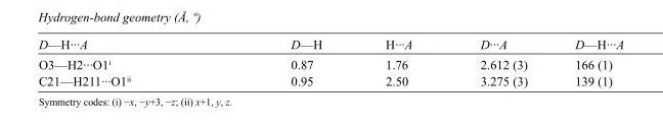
<table><tbody><tr><td>D—H···A</td><td>D—H</td><td>H···A</td><td>D···A</td><td>D—H···A</td></tr><tr><td>O3—H2···O1<sup>i</sup></td><td>0.87</td><td>1.76</td><td>2.612 (3)</td><td>166 (1)</td></tr><tr><td>C21—H211···O1<sup>ii</sup></td><td>0.95</td><td>2.50</td><td>3.275 (3)</td><td>139 (1)</td></tr></tbody></table>